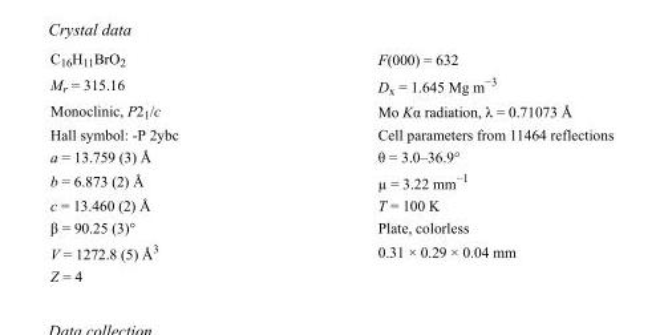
<table><tbody><tr><td>C<sub>16</sub>H<sub>11</sub>BrO<sub>2</sub></td><td>F(000) = 632</td></tr><tr><td>M<sub>r</sub> = 315.16</td><td>D<sub>x</sub> = 1.645 Mg m<sup>−3</sup></td></tr><tr><td>Monoclinic, P2<sub>1</sub>/c</td><td>Mo Kα radiation, λ = 0.71073 Å</td></tr><tr><td>Hall symbol: -P 2ybc</td><td>Cell parameters from 11464 reflections</td></tr><tr><td>a = 13.759 (3) Å</td><td>θ = 3.0–36.9°</td></tr><tr><td>b = 6.873 (2) Å</td><td>µ = 3.22 mm<sup>−1</sup></td></tr><tr><td>c = 13.460 (2) Å</td><td>T = 100 K</td></tr><tr><td>β = 90.25 (3)°</td><td>Plate, colorless</td></tr><tr><td>V = 1272.8 (5) Å<sup>3</sup></td><td>0.31 × 0.29 × 0.04 mm</td></tr><tr><td>Z = 4</td><td></td></tr></tbody></table>